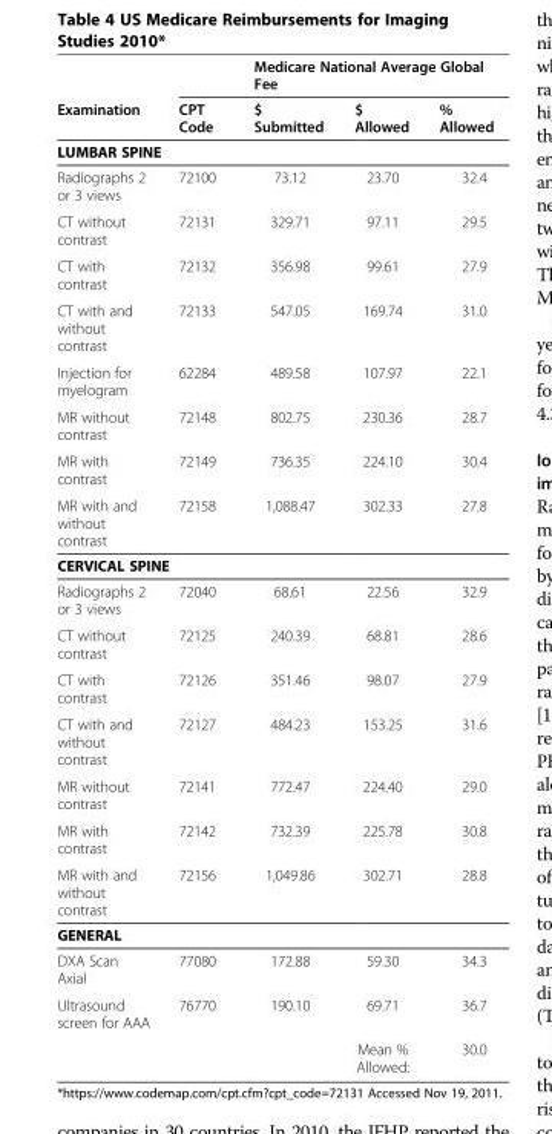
<table><thead><tr><td rowspan="2">Examination</td><td rowspan="2">CPT Code</td><td colspan="3">Medicare National Average Global Fee</td></tr><tr><td>$ Submitted</td><td>$ Allowed</td><td>% Allowed</td></tr></thead><tbody><tr><td colspan="5">LUMBAR SPINE</td></tr><tr><td>Radiographs 2 or 3 views</td><td>72100</td><td>73.12</td><td>23.70</td><td>32.4</td></tr><tr><td>CT without contrast</td><td>72131</td><td>329.71</td><td>97.11</td><td>29.5</td></tr><tr><td>CT with contrast</td><td>72132</td><td>356.98</td><td>99.61</td><td>27.9</td></tr><tr><td>CT with and without contrast</td><td>72133</td><td>547.05</td><td>169.74</td><td>31.0</td></tr><tr><td>Injection for myelogram</td><td>62284</td><td>489.58</td><td>107.97</td><td>22.1</td></tr><tr><td>MR without contrast</td><td>72148</td><td>802.75</td><td>230.36</td><td>28.7</td></tr><tr><td>MR with contrast</td><td>72149</td><td>736.35</td><td>224.10</td><td>30.4</td></tr><tr><td>MR with and without contrast</td><td>72158</td><td>1,088.47</td><td>302.33</td><td>27.8</td></tr><tr><td colspan="5">CERVICAL SPINE</td></tr><tr><td>Radiographs 2 or 3 views</td><td>72040</td><td>68.61</td><td>22.56</td><td>32.9</td></tr><tr><td>CT without contrast</td><td>72125</td><td>240.39</td><td>68.81</td><td>28.6</td></tr><tr><td>CT with contrast</td><td>72126</td><td>351.46</td><td>98.07</td><td>27.9</td></tr><tr><td>CT with and without contrast</td><td>72127</td><td>484.23</td><td>153.25</td><td>31.6</td></tr><tr><td>MR without contrast</td><td>72141</td><td>772.47</td><td>224.40</td><td>29.0</td></tr><tr><td>MR with contrast</td><td>72142</td><td>732.39</td><td>225.78</td><td>30.8</td></tr><tr><td>MR with and without contrast</td><td>72156</td><td>1,049.86</td><td>302.71</td><td>28.8</td></tr><tr><td colspan="5">GENERAL</td></tr><tr><td>DXA Scan Axial</td><td>77080</td><td>172.88</td><td>59.30</td><td>34.3</td></tr><tr><td rowspan="2">Ultrasound screen for AAA</td><td>76770</td><td>190.10</td><td>69.71</td><td>36.7</td></tr><tr><td></td><td></td><td>Mean % Allowed:</td><td>30.0</td></tr></tbody></table>